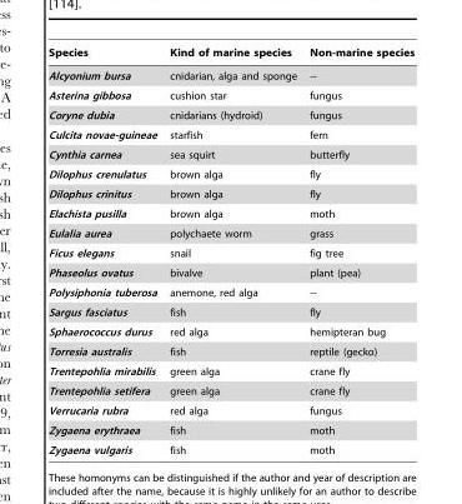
<table><thead><tr><td>Species</td><td>Kind of marine species</td><td>Non-marine species</td></tr></thead><tbody><tr><td>Alcyonium bursa</td><td>cnidarian, alga and sponge</td><td>--</td></tr><tr><td>Asterina gibbosa</td><td>cushion star</td><td>fungus</td></tr><tr><td>Coryne dubia</td><td>cnidarians (hydroid)</td><td>fungus</td></tr><tr><td>Culcita novae-guineae</td><td>starfish</td><td>fern</td></tr><tr><td>Cynthia carnea</td><td>sea squirt</td><td>butterfly</td></tr><tr><td>Dilophus crenulatus</td><td>brown alga</td><td>fly</td></tr><tr><td>Dilophus crinitus</td><td>brown alga</td><td>fly</td></tr><tr><td>Elachista pusilla</td><td>brown alga</td><td>moth</td></tr><tr><td>Eulalia aurea</td><td>polychaete worm</td><td>grass</td></tr><tr><td>Ficus elegans</td><td>snail</td><td>fig tree</td></tr><tr><td>Phaseolus ovatus</td><td>bivalve</td><td>plant (pea)</td></tr><tr><td>Polysiphonia tuberosa</td><td>anemone, red alga</td><td>--</td></tr><tr><td>Sargus fasciatus</td><td>fish</td><td>fly</td></tr><tr><td>Sphaerococcus durus</td><td>red alga</td><td>hemipteran bug</td></tr><tr><td>Torresia australis</td><td>fish</td><td>reptile (gecko)</td></tr><tr><td>Trentepohlia mirabilis</td><td>green alga</td><td>crane fly</td></tr><tr><td>Trentepohlia setifera</td><td>green alga</td><td>crane fly</td></tr><tr><td>Verrucaria rubra</td><td>red alga</td><td>fungus</td></tr><tr><td>Zygaena erythraea</td><td>fish</td><td>moth</td></tr><tr><td>Zygaena vulgaris</td><td>fish</td><td>moth</td></tr></tbody></table>